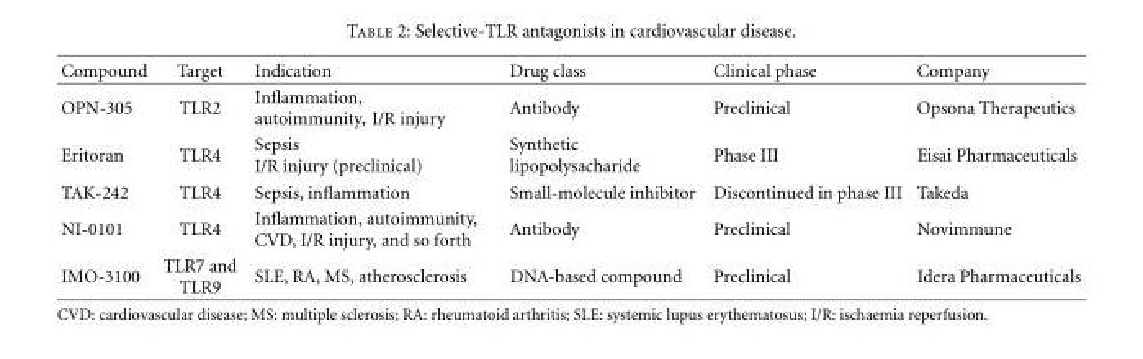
<table><thead><tr><td>Compound</td><td>Target</td><td>Indication</td><td>Drug class</td><td>Clinical phase</td><td>Company</td></tr></thead><tbody><tr><td>OPN-305</td><td>TLR2</td><td>Inflammation, autoimmunity, I/R injury</td><td>Antibody</td><td>Preclinical</td><td>Opsona Therapeutics</td></tr><tr><td>Eritoran</td><td>TLR4</td><td>Sepsis I/R injury (preclinical)</td><td>Synthetic lipopolysacharide</td><td>Phase III</td><td>Eisai Pharmaceuticals</td></tr><tr><td>TAK-242</td><td>TLR4</td><td>Sepsis, inflammation</td><td>Small-molecule inhibitor</td><td>Discontinued in phase III</td><td>Takeda</td></tr><tr><td>NI-0101</td><td>TLR4</td><td>Inflammation, autoimmunity, CVD, I/R injury, and so forth</td><td>Antibody</td><td>Preclinical</td><td>Novimmune</td></tr><tr><td>IMO-3100</td><td>TLR7 and TLR9</td><td>SLE, RA, MS, atherosclerosis</td><td>DNA-based compound</td><td>Preclinical</td><td>Idera Pharmaceuticals</td></tr></tbody></table>